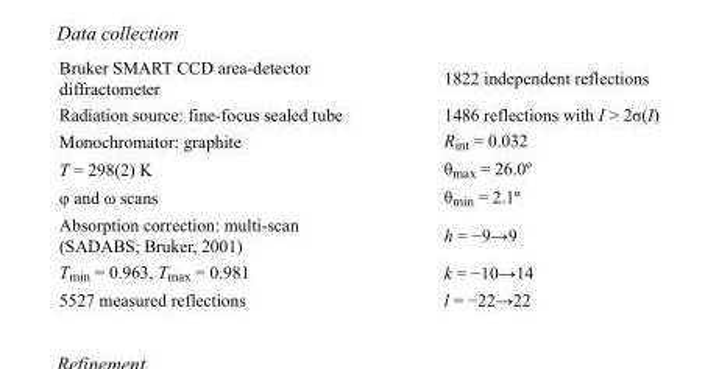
<table><tbody><tr><td>Bruker SMART CCD area-detector diffractometer</td><td>1822 independent reflections</td></tr><tr><td>Radiation source: fine-focus sealed tube</td><td>1486 reflections with I &gt; 2σ(I)</td></tr><tr><td>Monochromator: graphite</td><td>R<sub>int</sub> = 0.032</td></tr><tr><td>T = 298(2) K</td><td>θ<sub>max</sub> = 26.0º</td></tr><tr><td>φ and ω scans</td><td>θ<sub>min</sub> = 2.1º</td></tr><tr><td>Absorption correction: multi-scan (SADABS; Bruker, 2001)</td><td>h = −9→9</td></tr><tr><td>T<sub>min</sub> = 0.963, T<sub>max</sub> = 0.981</td><td>k = −10→14</td></tr><tr><td>5527 measured reflections</td><td>l = −22→22</td></tr></tbody></table>